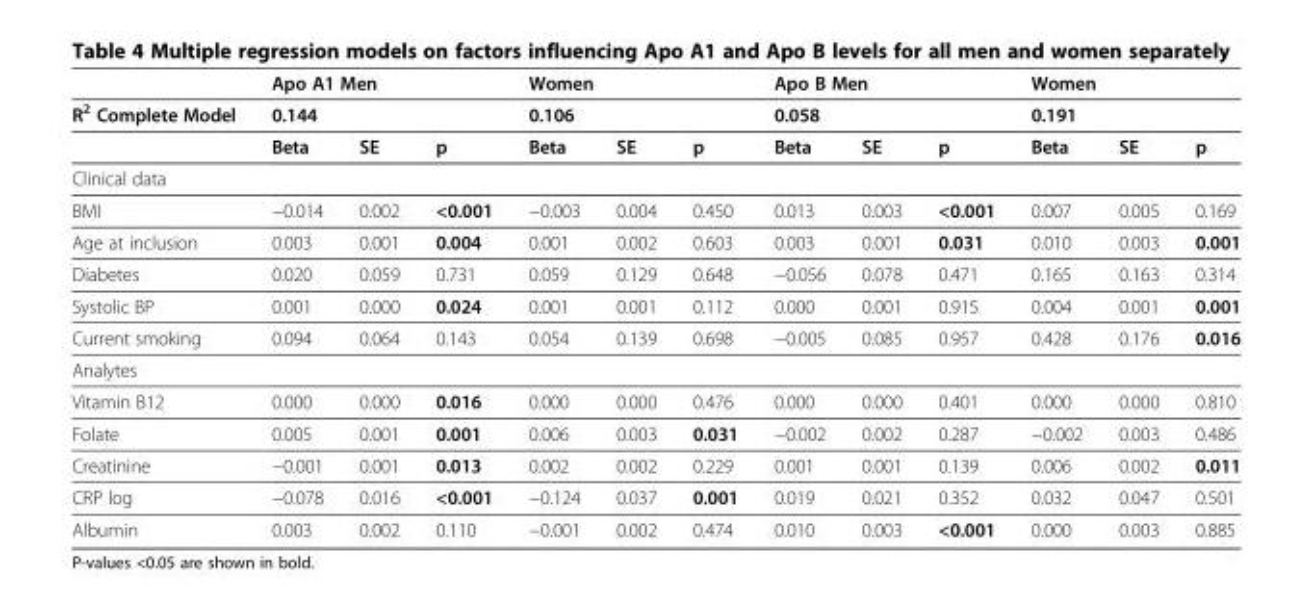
<table><thead><tr><td rowspan="3">R<sup>2</sup> Complete Model</td><td rowspan="2" colspan="3">Apo A1 Men 0.144</td><td rowspan="2" colspan="3">Women 0.106</td><td rowspan="2" colspan="3">Apo B Men 0.058</td><td rowspan="2" colspan="3">Women 0.191</td></tr><tr></tr><tr><td>Beta</td><td>SE</td><td>p</td><td>Beta</td><td>SE</td><td>p</td><td>Beta</td><td>SE</td><td>p</td><td>Beta</td><td>SE</td><td>p</td></tr></thead><tbody><tr><td colspan="13">Clinical data</td></tr><tr><td>BMI</td><td>−0.014</td><td>0.002</td><td>&lt;0.001</td><td>−0.003</td><td>0.004</td><td>0.450</td><td>0.013</td><td>0.003</td><td>&lt;0.001</td><td>0.007</td><td>0.005</td><td>0.169</td></tr><tr><td>Age at inclusion</td><td>0.003</td><td>0.001</td><td>0.004</td><td>0.001</td><td>0.002</td><td>0.603</td><td>0.003</td><td>0.001</td><td>0.031</td><td>0.010</td><td>0.003</td><td>0.001</td></tr><tr><td>Diabetes</td><td>0.020</td><td>0.059</td><td>0.731</td><td>0.059</td><td>0.129</td><td>0.648</td><td>−0.056</td><td>0.078</td><td>0.471</td><td>0.165</td><td>0.163</td><td>0.314</td></tr><tr><td>Systolic BP</td><td>0.001</td><td>0.000</td><td>0.024</td><td>0.001</td><td>0.001</td><td>0.112</td><td>0.000</td><td>0.001</td><td>0.915</td><td>0.004</td><td>0.001</td><td>0.001</td></tr><tr><td>Current smoking</td><td>0.094</td><td>0.064</td><td>0.143</td><td>0.054</td><td>0.139</td><td>0.698</td><td>−0.005</td><td>0.085</td><td>0.957</td><td>0.428</td><td>0.176</td><td>0.016</td></tr><tr><td colspan="13">Analytes</td></tr><tr><td>Vitamin B12</td><td>0.000</td><td>0.000</td><td>0.016</td><td>0.000</td><td>0.000</td><td>0.476</td><td>0.000</td><td>0.000</td><td>0.401</td><td>0.000</td><td>0.000</td><td>0.810</td></tr><tr><td>Folate</td><td>0.005</td><td>0.001</td><td>0.001</td><td>0.006</td><td>0.003</td><td>0.031</td><td>−0.002</td><td>0.002</td><td>0.287</td><td>−0.002</td><td>0.003</td><td>0.486</td></tr><tr><td>Creatinine</td><td>−0.001</td><td>0.001</td><td>0.013</td><td>0.002</td><td>0.002</td><td>0.229</td><td>0.001</td><td>0.001</td><td>0.139</td><td>0.006</td><td>0.002</td><td>0.011</td></tr><tr><td>CRP log</td><td>−0.078</td><td>0.016</td><td>&lt;0.001</td><td>−0.124</td><td>0.037</td><td>0.001</td><td>0.019</td><td>0.021</td><td>0.352</td><td>0.032</td><td>0.047</td><td>0.501</td></tr><tr><td>Albumin</td><td>0.003</td><td>0.002</td><td>0.110</td><td>−0.001</td><td>0.002</td><td>0.474</td><td>0.010</td><td>0.003</td><td>&lt;0.001</td><td>0.000</td><td>0.003</td><td>0.885</td></tr></tbody></table>